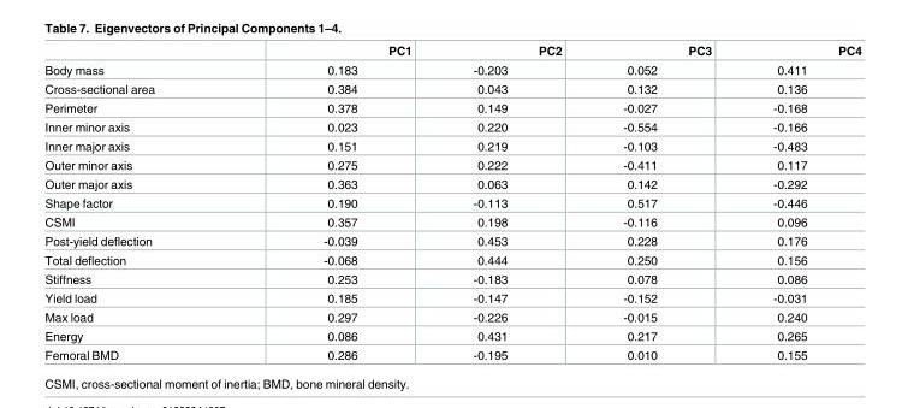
<table><thead><tr><td></td><td>PC1</td><td>PC2</td><td>PC3</td><td>PC4</td></tr></thead><tbody><tr><td>Body mass</td><td>0.183</td><td>-0.203</td><td>0.052</td><td>0.411</td></tr><tr><td>Cross-sectional area</td><td>0.384</td><td>0.043</td><td>0.132</td><td>0.136</td></tr><tr><td>Perimeter</td><td>0.378</td><td>0.149</td><td>-0.027</td><td>-0.168</td></tr><tr><td>Inner minor axis</td><td>0.023</td><td>0.220</td><td>-0.554</td><td>-0.166</td></tr><tr><td>Inner major axis</td><td>0.151</td><td>0.219</td><td>-0.103</td><td>-0.483</td></tr><tr><td>Outer minor axis</td><td>0.275</td><td>0.222</td><td>-0.411</td><td>0.117</td></tr><tr><td>Outer major axis</td><td>0.363</td><td>0.063</td><td>0.142</td><td>-0.292</td></tr><tr><td>Shape factor</td><td>0.190</td><td>-0.113</td><td>0.517</td><td>-0.446</td></tr><tr><td>CSMI</td><td>0.357</td><td>0.198</td><td>-0.116</td><td>0.096</td></tr><tr><td>Post-yield deflection</td><td>-0.039</td><td>0.453</td><td>0.228</td><td>0.176</td></tr><tr><td>Total deflection</td><td>-0.068</td><td>0.444</td><td>0.250</td><td>0.156</td></tr><tr><td>Stiffness</td><td>0.253</td><td>-0.183</td><td>0.078</td><td>0.086</td></tr><tr><td>Yield load</td><td>0.185</td><td>-0.147</td><td>-0.152</td><td>-0.031</td></tr><tr><td>Max load</td><td>0.297</td><td>-0.226</td><td>-0.015</td><td>0.240</td></tr><tr><td>Energy</td><td>0.086</td><td>0.431</td><td>0.217</td><td>0.265</td></tr><tr><td>Femoral BMD</td><td>0.286</td><td>-0.195</td><td>0.010</td><td>0.155</td></tr></tbody></table>